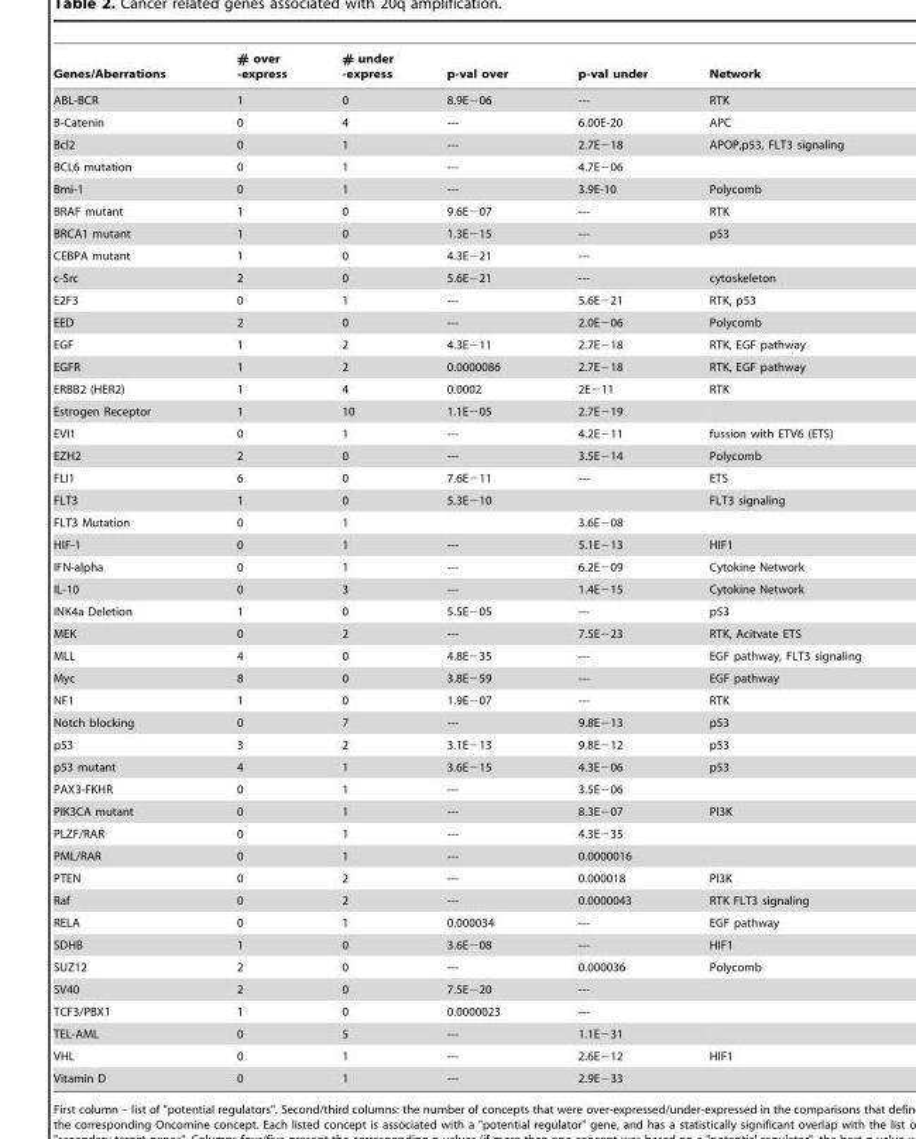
<table><thead><tr><td>Genes/Aberrations</td><td># over -express</td><td># under -express</td><td>p-val over</td><td>p-val under</td><td>Network</td></tr></thead><tbody><tr><td>ABL-BCR</td><td>1</td><td>0</td><td>8.9E−06</td><td>---</td><td>RTK</td></tr><tr><td>B-Catenin</td><td>0</td><td>4</td><td>---</td><td>6.00E-20</td><td>APC</td></tr><tr><td>Bcl2</td><td>0</td><td>1</td><td>---</td><td>2.7E−18</td><td>APOP,p53, FLT3 signaling</td></tr><tr><td>BCL6 mutation</td><td>0</td><td>1</td><td>---</td><td>4.7E−06</td><td></td></tr><tr><td>Bmi-1</td><td>0</td><td>1</td><td>---</td><td>3.9E-10</td><td>Polycomb</td></tr><tr><td>BRAF mutant</td><td>1</td><td>0</td><td>9.6E−07</td><td>---</td><td>RTK</td></tr><tr><td>BRCA1 mutant</td><td>1</td><td>0</td><td>1.3E−15</td><td>---</td><td>p53</td></tr><tr><td>CEBPA mutant</td><td>1</td><td>0</td><td>4.3E−21</td><td>---</td><td></td></tr><tr><td>c-Src</td><td>2</td><td>0</td><td>5.6E−21</td><td>---</td><td>cytoskeleton</td></tr><tr><td>E2F3</td><td>0</td><td>1</td><td>---</td><td>5.6E−21</td><td>RTK, p53</td></tr><tr><td>EED</td><td>2</td><td>0</td><td>---</td><td>2.0E−06</td><td>Polycomb</td></tr><tr><td>EGF</td><td>1</td><td>2</td><td>4.3E−11</td><td>2.7E−18</td><td>RTK, EGF pathway</td></tr><tr><td>EGFR</td><td>1</td><td>2</td><td>0.0000086</td><td>2.7E−18</td><td>RTK, EGF pathway</td></tr><tr><td>ERBB2 (HER2)</td><td>1</td><td>4</td><td>0.0002</td><td>2E−11</td><td>RTK</td></tr><tr><td>Estrogen Receptor</td><td>1</td><td>10</td><td>1.1E−05</td><td>2.7E−19</td><td></td></tr><tr><td>EVI1</td><td>0</td><td>1</td><td>---</td><td>4.2E−11</td><td>fussion with ETV6 (ETS)</td></tr><tr><td>EZH2</td><td>2</td><td>0</td><td>---</td><td>3.5E−14</td><td>Polycomb</td></tr><tr><td>FLI1</td><td>6</td><td>0</td><td>7.6E−11</td><td>---</td><td>ETS</td></tr><tr><td>FLT3</td><td>1</td><td>0</td><td>5.3E−10</td><td></td><td>FLT3 signaling</td></tr><tr><td>FLT3 Mutation</td><td>0</td><td>1</td><td></td><td>3.6E−08</td><td></td></tr><tr><td>HIF-1</td><td>0</td><td>1</td><td>---</td><td>5.1E−13</td><td>HIF1</td></tr><tr><td>IFN-alpha</td><td>0</td><td>1</td><td>---</td><td>6.2E−09</td><td>Cytokine Network</td></tr><tr><td>IL-10</td><td>0</td><td>3</td><td>---</td><td>1.4E−15</td><td>Cytokine Network</td></tr><tr><td>INK4a Deletion</td><td>1</td><td>0</td><td>5.5E−05</td><td>---</td><td>p53</td></tr><tr><td>MEK</td><td>0</td><td>2</td><td>---</td><td>7.5E−23</td><td>RTK, Acitvate ETS</td></tr><tr><td>MLL</td><td>4</td><td>0</td><td>4.8E−35</td><td>---</td><td>EGF pathway, FLT3 signaling</td></tr><tr><td>Myc</td><td>8</td><td>0</td><td>3.8E−59</td><td>---</td><td>EGF pathway</td></tr><tr><td>NF1</td><td>1</td><td>0</td><td>1.9E−07</td><td>---</td><td>RTK</td></tr><tr><td>Notch blocking</td><td>0</td><td>7</td><td>---</td><td>9.8E−13</td><td>p53</td></tr><tr><td>p53</td><td>3</td><td>2</td><td>3.1E−13</td><td>9.8E−12</td><td>p53</td></tr><tr><td>p53 mutant</td><td>4</td><td>1</td><td>3.6E−15</td><td>4.3E−06</td><td>p53</td></tr><tr><td>PAX3-FKHR</td><td>0</td><td>1</td><td>---</td><td>3.5E−06</td><td></td></tr><tr><td>PIK3CA mutant</td><td>0</td><td>1</td><td>---</td><td>8.3E−07</td><td>PI3K</td></tr><tr><td>PLZF/RAR</td><td>0</td><td>1</td><td>---</td><td>4.3E−35</td><td></td></tr><tr><td>PML/RAR</td><td>0</td><td>1</td><td>---</td><td>0.0000016</td><td></td></tr><tr><td>PTEN</td><td>0</td><td>2</td><td>---</td><td>0.000018</td><td>PI3K</td></tr><tr><td>Raf</td><td>0</td><td>2</td><td>---</td><td>0.0000043</td><td>RTK FLT3 signaling</td></tr><tr><td>RELA</td><td>0</td><td>1</td><td>0.000034</td><td>---</td><td>EGF pathway</td></tr><tr><td>SDHB</td><td>1</td><td>0</td><td>3.6E−08</td><td>---</td><td>HIF1</td></tr><tr><td>SUZ12</td><td>2</td><td>0</td><td>---</td><td>0.000036</td><td>Polycomb</td></tr><tr><td>SV40</td><td>2</td><td>0</td><td>7.5E−20</td><td>---</td><td></td></tr><tr><td>TCF3/PBX1</td><td>1</td><td>0</td><td>0.0000023</td><td>---</td><td></td></tr><tr><td>TEL-AML</td><td>0</td><td>5</td><td>---</td><td>1.1E−31</td><td></td></tr><tr><td>VHL</td><td>0</td><td>1</td><td>---</td><td>2.6E−12</td><td>HIF1</td></tr><tr><td>Vitamin D</td><td>0</td><td>1</td><td>---</td><td>2.9E−33</td><td></td></tr></tbody></table>